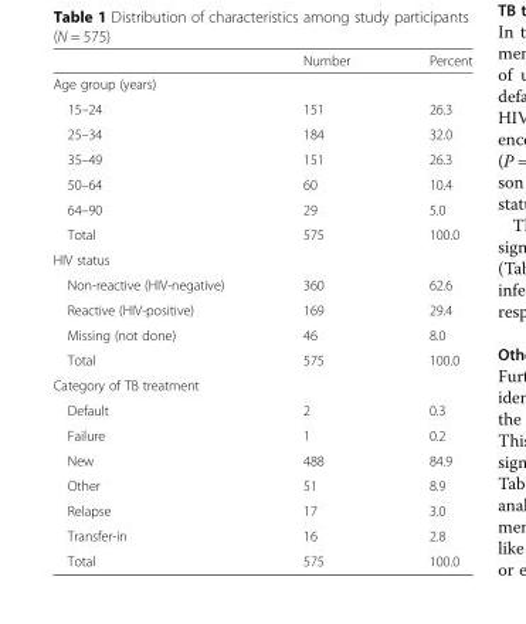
<table><thead><tr><td></td><td>Number</td><td>Percent</td></tr></thead><tbody><tr><td colspan="3">Age group (years)</td></tr><tr><td>15–24</td><td>151</td><td>26.3</td></tr><tr><td>25–34</td><td>184</td><td>32.0</td></tr><tr><td>35–49</td><td>151</td><td>26.3</td></tr><tr><td>50–64</td><td>60</td><td>10.4</td></tr><tr><td>64–90</td><td>29</td><td>5.0</td></tr><tr><td>Total</td><td>575</td><td>100.0</td></tr><tr><td colspan="3">HIV status</td></tr><tr><td>Non-reactive (HIV-negative)</td><td>360</td><td>62.6</td></tr><tr><td>Reactive (HIV-positive)</td><td>169</td><td>29.4</td></tr><tr><td>Missing (not done)</td><td>46</td><td>8.0</td></tr><tr><td>Total</td><td>575</td><td>100.0</td></tr><tr><td colspan="3">Category of TB treatment</td></tr><tr><td>Default</td><td>2</td><td>0.3</td></tr><tr><td>Failure</td><td>1</td><td>0.2</td></tr><tr><td>New</td><td>488</td><td>84.9</td></tr><tr><td>Other</td><td>51</td><td>8.9</td></tr><tr><td>Relapse</td><td>17</td><td>3.0</td></tr><tr><td>Transfer-in</td><td>16</td><td>2.8</td></tr><tr><td>Total</td><td>575</td><td>100.0</td></tr></tbody></table>